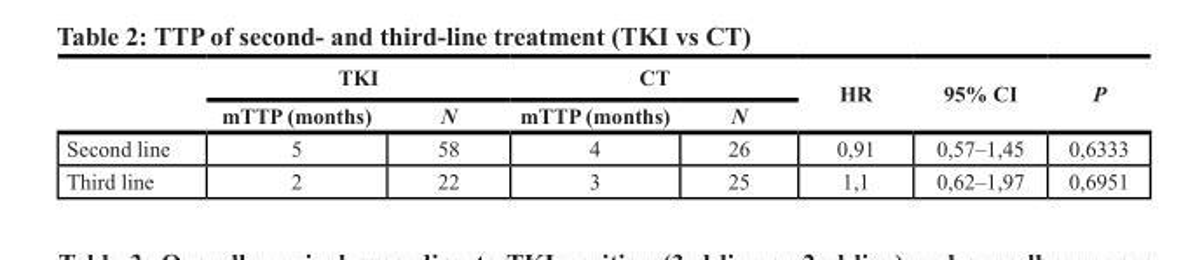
<table><thead><tr><td rowspan="2"></td><td colspan="2">TKI</td><td colspan="2">CT</td><td rowspan="2">HR</td><td rowspan="2">95% CI</td><td rowspan="2">P</td></tr><tr><td>mTTP (months)</td><td>N</td><td>mTTP (months)</td><td>N</td></tr></thead><tbody><tr><td>Second line</td><td>5</td><td>58</td><td>4</td><td>26</td><td>0,91</td><td>0,57–1,45</td><td>0,6333</td></tr><tr><td>Third line</td><td>2</td><td>22</td><td>3</td><td>25</td><td>1,1</td><td>0,62–1,97</td><td>0,6951</td></tr></tbody></table>